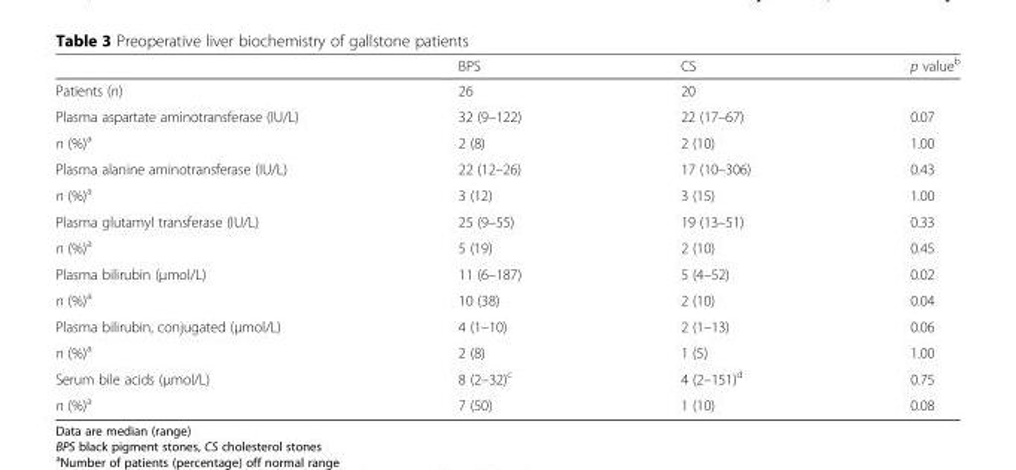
<table><thead><tr><td></td><td>BPS</td><td>CS</td><td>p value<sup>b</sup></td></tr></thead><tbody><tr><td>Patients (n)</td><td>26</td><td>20</td><td></td></tr><tr><td>Plasma aspartate aminotransferase (IU/L)</td><td>32 (9–122)</td><td>22 (17–67)</td><td>0.07</td></tr><tr><td>n (%)<sup>a</sup></td><td>2 (8)</td><td>2 (10)</td><td>1.00</td></tr><tr><td>Plasma alanine aminotransferase (IU/L)</td><td>22 (12–26)</td><td>17 (10–306)</td><td>0.43</td></tr><tr><td>n (%)<sup>a</sup></td><td>3 (12)</td><td>3 (15)</td><td>1.00</td></tr><tr><td>Plasma glutamyl transferase (IU/L)</td><td>25 (9–55)</td><td>19 (13–51)</td><td>0.33</td></tr><tr><td>n (%)<sup>a</sup></td><td>5 (19)</td><td>2 (10)</td><td>0.45</td></tr><tr><td>Plasma bilirubin (μmol/L)</td><td>11 (6–187)</td><td>5 (4–52)</td><td>0.02</td></tr><tr><td>n (%)<sup>a</sup></td><td>10 (38)</td><td>2 (10)</td><td>0.04</td></tr><tr><td>Plasma bilirubin, conjugated (μmol/L)</td><td>4 (1–10)</td><td>2 (1–13)</td><td>0.06</td></tr><tr><td>n (%)<sup>a</sup></td><td>2 (8)</td><td>1 (5)</td><td>1.00</td></tr><tr><td>Serum bile acids (μmol/L)</td><td>8 (2–32)<sup>c</sup></td><td>4 (2–151)<sup>d</sup></td><td>0.75</td></tr><tr><td>n (%)<sup>a</sup></td><td>7 (50)</td><td>1 (10)</td><td>0.08</td></tr></tbody></table>